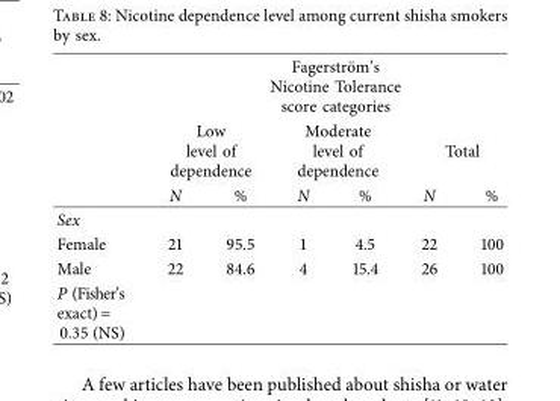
<table><thead><tr><td rowspan="3"></td><td colspan="6">Fagerstr¨om’s Nicotine Tolerance score categories</td></tr><tr><td colspan="2">Low level of dependence</td><td colspan="2">Moderate level of dependence</td><td colspan="2">Total</td></tr><tr><td>N</td><td>%</td><td>N</td><td>%</td><td>N</td><td>%</td></tr></thead><tbody><tr><td colspan="7">Sex</td></tr><tr><td>Female</td><td>21</td><td>95.5</td><td>1</td><td>4.5</td><td>22</td><td>100</td></tr><tr><td>Male</td><td>22</td><td>84.6</td><td>4</td><td>15.4</td><td>26</td><td>100</td></tr><tr><td>P (Fisher’s exact) = 0.35 (NS)</td><td></td><td></td><td></td><td></td><td></td><td></td></tr></tbody></table>